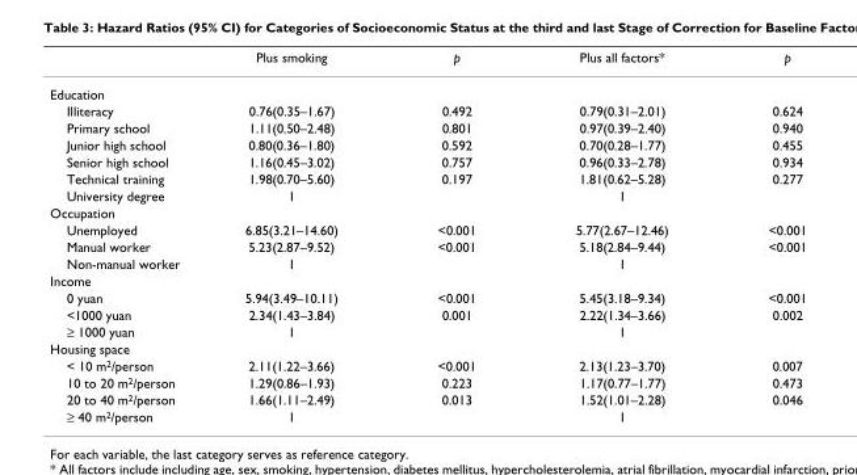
<table><thead><tr><td></td><td>Plus smoking</td><td>p</td><td>Plus all factors*</td><td>p</td></tr></thead><tbody><tr><td colspan="5">Education</td></tr><tr><td>Illiteracy</td><td>0.76(0.35–1.67)</td><td>0.492</td><td>0.79(0.31–2.01)</td><td>0.624</td></tr><tr><td>Primary school</td><td>1.11(0.50–2.48)</td><td>0.801</td><td>0.97(0.39–2.40)</td><td>0.940</td></tr><tr><td>Junior high school</td><td>0.80(0.36–1.80)</td><td>0.592</td><td>0.70(0.28–1.77)</td><td>0.455</td></tr><tr><td>Senior high school</td><td>1.16(0.45–3.02)</td><td>0.757</td><td>0.96(0.33–2.78)</td><td>0.934</td></tr><tr><td>Technical training</td><td>1.98(0.70–5.60)</td><td>0.197</td><td>1.81(0.62–5.28)</td><td>0.277</td></tr><tr><td>University degree</td><td>1</td><td></td><td>1</td><td></td></tr><tr><td colspan="5">Occupation</td></tr><tr><td>Unemployed</td><td>6.85(3.21–14.60)</td><td>&lt;0.001</td><td>5.77(2.67–12.46)</td><td>&lt;0.001</td></tr><tr><td>Manual worker</td><td>5.23(2.87–9.52)</td><td>&lt;0.001</td><td>5.18(2.84–9.44)</td><td>&lt;0.001</td></tr><tr><td>Non-manual worker</td><td>1</td><td></td><td>1</td><td></td></tr><tr><td colspan="5">Income</td></tr><tr><td>0 yuan</td><td>5.94(3.49–10.11)</td><td>&lt;0.001</td><td>5.45(3.18–9.34)</td><td>&lt;0.001</td></tr><tr><td>&lt;1000 yuan</td><td>2.34(1.43–3.84)</td><td>0.001</td><td>2.22(1.34–3.66)</td><td>0.002</td></tr><tr><td>≥ 1000 yuan</td><td>1</td><td></td><td>1</td><td></td></tr><tr><td colspan="5">Housing space</td></tr><tr><td>&lt; 10 m2/person</td><td>2.11(1.22–3.66)</td><td>&lt;0.001</td><td>2.13(1.23–3.70)</td><td>0.007</td></tr><tr><td>10 to 20 m2/person</td><td>1.29(0.86–1.93)</td><td>0.223</td><td>1.17(0.77–1.77)</td><td>0.473</td></tr><tr><td>20 to 40 m2/person</td><td>1.66(1.11–2.49)</td><td>0.013</td><td>1.52(1.01–2.28)</td><td>0.046</td></tr><tr><td>≥ 40 m2/person</td><td>1</td><td></td><td>1</td><td></td></tr></tbody></table>